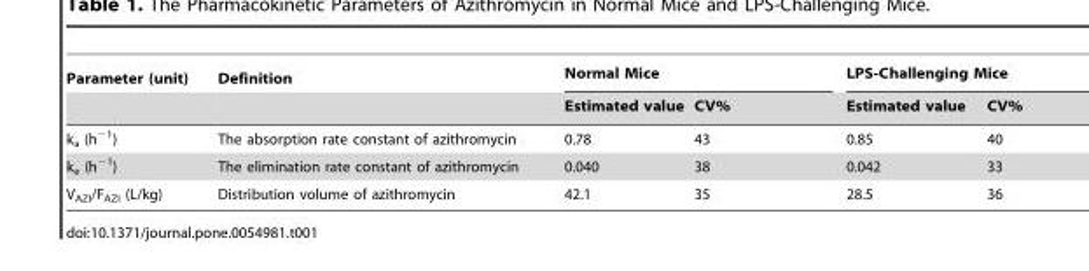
<table><thead><tr><td rowspan="2">Parameter (unit)</td><td rowspan="2">Definition</td><td colspan="2">Normal Mice</td><td colspan="2">LPS-Challenging Mice</td></tr><tr><td>Estimated value</td><td>CV%</td><td>Estimated value</td><td>CV%</td></tr></thead><tbody><tr><td>k<sub>a</sub> (h<sup>−1</sup>)</td><td>The absorption rate constant of azithromycin</td><td>0.78</td><td>43</td><td>0.85</td><td>40</td></tr><tr><td>k<sub>e</sub> (h<sup>−1</sup>)</td><td>The elimination rate constant of azithromycin</td><td>0.040</td><td>38</td><td>0.042</td><td>33</td></tr><tr><td>V<sub>AZI</sub>/F<sub>AZI</sub> (L/kg)</td><td>Distribution volume of azithromycin</td><td>42.1</td><td>35</td><td>28.5</td><td>36</td></tr></tbody></table>